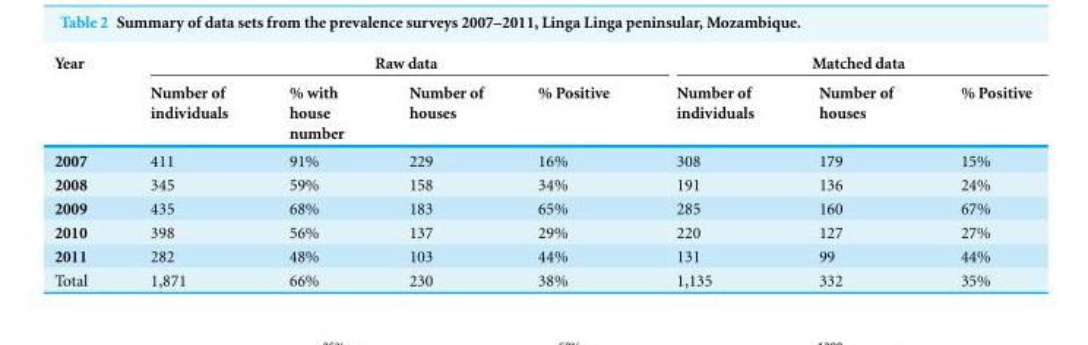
<table><thead><tr><td rowspan="2">Year</td><td colspan="4">Raw data</td><td colspan="3">Matched data</td></tr><tr><td>Number of individuals</td><td>% with house number</td><td>Number of houses</td><td>% Positive</td><td>Number of individuals</td><td>Number of houses</td><td>% Positive</td></tr></thead><tbody><tr><td>2007</td><td>411</td><td>91%</td><td>229</td><td>16%</td><td>308</td><td>179</td><td>15%</td></tr><tr><td>2008</td><td>345</td><td>59%</td><td>158</td><td>34%</td><td>191</td><td>136</td><td>24%</td></tr><tr><td>2009</td><td>435</td><td>68%</td><td>183</td><td>65%</td><td>285</td><td>160</td><td>67%</td></tr><tr><td>2010</td><td>398</td><td>56%</td><td>137</td><td>29%</td><td>220</td><td>127</td><td>27%</td></tr><tr><td>2011</td><td>282</td><td>48%</td><td>103</td><td>44%</td><td>131</td><td>99</td><td>44%</td></tr><tr><td>Total</td><td>1,871</td><td>66%</td><td>230</td><td>38%</td><td>1,135</td><td>332</td><td>35%</td></tr></tbody></table>